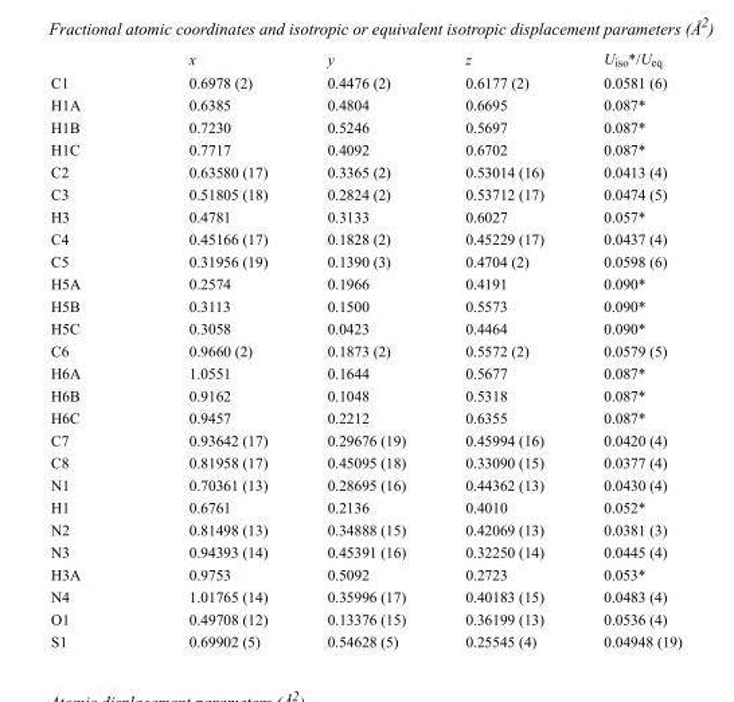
<table><thead><tr><td></td><td>x</td><td>y</td><td>z</td><td>U<sub>iso</sub>*/U<sub>eq</sub></td></tr></thead><tbody><tr><td>C1</td><td>0.6978 (2)</td><td>0.4476 (2)</td><td>0.6177 (2)</td><td>0.0581 (6)</td></tr><tr><td>H1A</td><td>0.6385</td><td>0.4804</td><td>0.6695</td><td>0.087*</td></tr><tr><td>H1B</td><td>0.7230</td><td>0.5246</td><td>0.5697</td><td>0.087*</td></tr><tr><td>H1C</td><td>0.7717</td><td>0.4092</td><td>0.6702</td><td>0.087*</td></tr><tr><td>C2</td><td>0.63580 (17)</td><td>0.3365 (2)</td><td>0.53014 (16)</td><td>0.0413 (4)</td></tr><tr><td>C3</td><td>0.51805 (18)</td><td>0.2824 (2)</td><td>0.53712 (17)</td><td>0.0474 (5)</td></tr><tr><td>H3</td><td>0.4781</td><td>0.3133</td><td>0.6027</td><td>0.057*</td></tr><tr><td>C4</td><td>0.45166 (17)</td><td>0.1828 (2)</td><td>0.45229 (17)</td><td>0.0437 (4)</td></tr><tr><td>C5</td><td>0.31956 (19)</td><td>0.1390 (3)</td><td>0.4704 (2)</td><td>0.0598 (6)</td></tr><tr><td>H5A</td><td>0.2574</td><td>0.1966</td><td>0.4191</td><td>0.090*</td></tr><tr><td>H5B</td><td>0.3113</td><td>0.1500</td><td>0.5573</td><td>0.090*</td></tr><tr><td>H5C</td><td>0.3058</td><td>0.0423</td><td>0.4464</td><td>0.090*</td></tr><tr><td>C6</td><td>0.9660 (2)</td><td>0.1873 (2)</td><td>0.5572 (2)</td><td>0.0579 (5)</td></tr><tr><td>H6A</td><td>1.0551</td><td>0.1644</td><td>0.5677</td><td>0.087*</td></tr><tr><td>H6B</td><td>0.9162</td><td>0.1048</td><td>0.5318</td><td>0.087*</td></tr><tr><td>H6C</td><td>0.9457</td><td>0.2212</td><td>0.6355</td><td>0.087*</td></tr><tr><td>C7</td><td>0.93642 (17)</td><td>0.29676 (19)</td><td>0.45994 (16)</td><td>0.0420 (4)</td></tr><tr><td>C8</td><td>0.81958 (17)</td><td>0.45095 (18)</td><td>0.33090 (15)</td><td>0.0377 (4)</td></tr><tr><td>N1</td><td>0.70361 (13)</td><td>0.28695 (16)</td><td>0.44362 (13)</td><td>0.0430 (4)</td></tr><tr><td>H1</td><td>0.6761</td><td>0.2136</td><td>0.4010</td><td>0.052*</td></tr><tr><td>N2</td><td>0.81498 (13)</td><td>0.34888 (15)</td><td>0.42069 (13)</td><td>0.0381 (3)</td></tr><tr><td>N3</td><td>0.94393 (14)</td><td>0.45391 (16)</td><td>0.32250 (14)</td><td>0.0445 (4)</td></tr><tr><td>H3A</td><td>0.9753</td><td>0.5092</td><td>0.2723</td><td>0.053*</td></tr><tr><td>N4</td><td>1.01765 (14)</td><td>0.35996 (17)</td><td>0.40183 (15)</td><td>0.0483 (4)</td></tr><tr><td>O1</td><td>0.49708 (12)</td><td>0.13376 (15)</td><td>0.36199 (13)</td><td>0.0536 (4)</td></tr><tr><td>S1</td><td>0.69902 (5)</td><td>0.54628 (5)</td><td>0.25545 (4)</td><td>0.04948 (19)</td></tr></tbody></table>